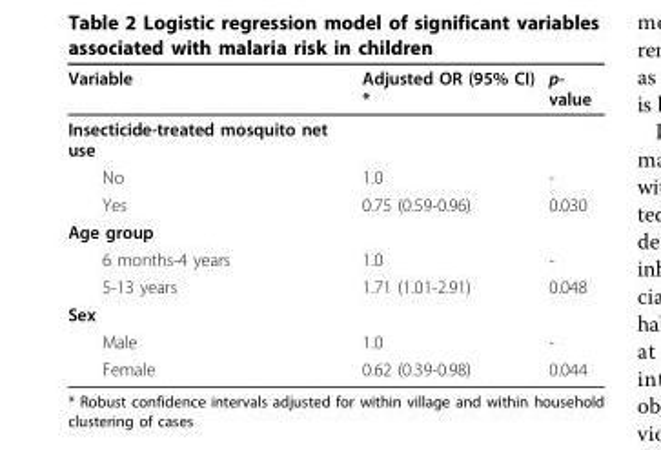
<table><thead><tr><td>Variable</td><td>Adjusted OR (95% CI) *</td><td>p- value</td></tr></thead><tbody><tr><td colspan="3">Insecticide-treated mosquito net use</td></tr><tr><td>No</td><td>1.0</td><td>-</td></tr><tr><td>Yes</td><td>0.75 (0.59-0.96)</td><td>0.030</td></tr><tr><td colspan="3">Age group</td></tr><tr><td>6 months-4 years</td><td>1.0</td><td>-</td></tr><tr><td>5-13 years</td><td>1.71 (1.01-2.91)</td><td>0.048</td></tr><tr><td colspan="3">Sex</td></tr><tr><td>Male</td><td>1.0</td><td>-</td></tr><tr><td>Female</td><td>0.62 (0.39-0.98)</td><td>0.044</td></tr></tbody></table>